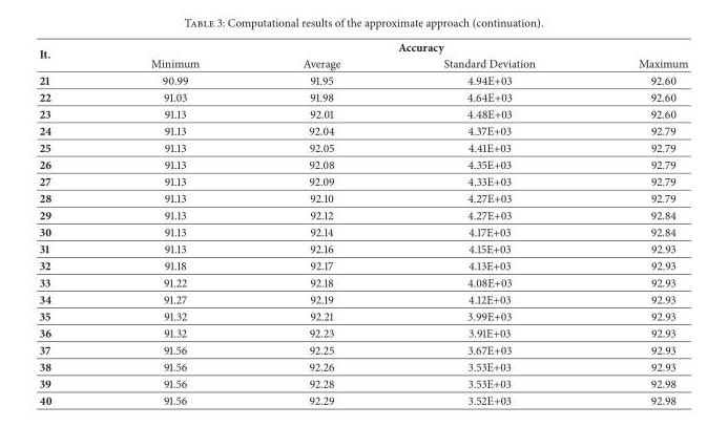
<table><thead><tr><td rowspan="2">It.</td><td colspan="4">Accuracy</td></tr><tr><td>Minimum</td><td>Average</td><td>Standard Deviation</td><td>Maximum</td></tr></thead><tbody><tr><td>21</td><td>90.99</td><td>91.95</td><td>4.94E+03</td><td>92.60</td></tr><tr><td>22</td><td>91.03</td><td>91.98</td><td>4.64E+03</td><td>92.60</td></tr><tr><td>23</td><td>91.13</td><td>92.01</td><td>4.48E+03</td><td>92.60</td></tr><tr><td>24</td><td>91.13</td><td>92.04</td><td>4.37E+03</td><td>92.79</td></tr><tr><td>25</td><td>91.13</td><td>92.05</td><td>4.41E+03</td><td>92.79</td></tr><tr><td>26</td><td>91.13</td><td>92.08</td><td>4.35E+03</td><td>92.79</td></tr><tr><td>27</td><td>91.13</td><td>92.09</td><td>4.33E+03</td><td>92.79</td></tr><tr><td>28</td><td>91.13</td><td>92.10</td><td>4.27E+03</td><td>92.79</td></tr><tr><td>29</td><td>91.13</td><td>92.12</td><td>4.27E+03</td><td>92.84</td></tr><tr><td>30</td><td>91.13</td><td>92.14</td><td>4.17E+03</td><td>92.84</td></tr><tr><td>31</td><td>91.13</td><td>92.16</td><td>4.15E+03</td><td>92.93</td></tr><tr><td>32</td><td>91.18</td><td>92.17</td><td>4.13E+03</td><td>92.93</td></tr><tr><td>33</td><td>91.22</td><td>92.18</td><td>4.08E+03</td><td>92.93</td></tr><tr><td>34</td><td>91.27</td><td>92.19</td><td>4.12E+03</td><td>92.93</td></tr><tr><td>35</td><td>91.32</td><td>92.21</td><td>3.99E+03</td><td>92.93</td></tr><tr><td>36</td><td>91.32</td><td>92.23</td><td>3.91E+03</td><td>92.93</td></tr><tr><td>37</td><td>91.56</td><td>92.25</td><td>3.67E+03</td><td>92.93</td></tr><tr><td>38</td><td>91.56</td><td>92.26</td><td>3.53E+03</td><td>92.93</td></tr><tr><td>39</td><td>91.56</td><td>92.28</td><td>3.53E+03</td><td>92.98</td></tr><tr><td>40</td><td>91.56</td><td>92.29</td><td>3.52E+03</td><td>92.98</td></tr></tbody></table>